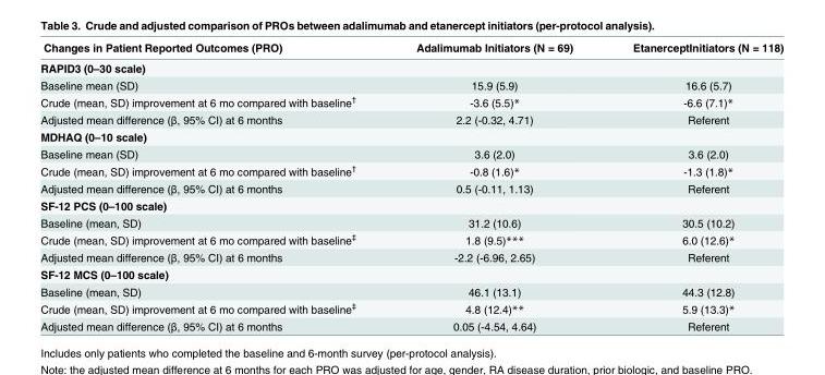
<table><thead><tr><td>Changes in Patient Reported Outcomes (PRO)</td><td>Adalimumab Initiators (N = 69)</td><td>EtanerceptInitiators (N = 118)</td></tr></thead><tbody><tr><td colspan="3">RAPID3 (0–30 scale)</td></tr><tr><td>Baseline mean (SD)</td><td>15.9 (5.9)</td><td>16.6 (5.7)</td></tr><tr><td>Crude (mean, SD) improvement at 6 mo compared with baseline<sup>†</sup></td><td>-3.6 (5.5)*</td><td>-6.6 (7.1)*</td></tr><tr><td>Adjusted mean difference (β, 95% CI) at 6 months</td><td>2.2 (-0.32, 4.71)</td><td>Referent</td></tr><tr><td colspan="3">MDHAQ (0–10 scale)</td></tr><tr><td>Baseline mean (SD)</td><td>3.6 (2.0)</td><td>3.6 (2.0)</td></tr><tr><td>Crude (mean, SD) improvement at 6 mo compared with baseline<sup>†</sup></td><td>-0.8 (1.6)*</td><td>-1.3 (1.8)*</td></tr><tr><td>Adjusted mean difference (β, 95% CI) at 6 months</td><td>0.5 (-0.11, 1.13)</td><td>Referent</td></tr><tr><td colspan="3">SF-12 PCS (0–100 scale)</td></tr><tr><td>Baseline (mean, SD)</td><td>31.2 (10.6)</td><td>30.5 (10.2)</td></tr><tr><td>Crude (mean, SD) improvement at 6 mo compared with baseline<sup>‡</sup></td><td>1.8 (9.5)***</td><td>6.0 (12.6)*</td></tr><tr><td>Adjusted mean difference (β, 95% CI) at 6 months</td><td>-2.2 (-6.96, 2.65)</td><td>Referent</td></tr><tr><td colspan="3">SF-12 MCS (0–100 scale)</td></tr><tr><td>Baseline (mean, SD)</td><td>46.1 (13.1)</td><td>44.3 (12.8)</td></tr><tr><td>Crude (mean, SD) improvement at 6 mo compared with baseline<sup>‡</sup></td><td>4.8 (12.4)**</td><td>5.9 (13.3)*</td></tr><tr><td>Adjusted mean difference (β, 95% CI) at 6 months</td><td>0.05 (-4.54, 4.64)</td><td>Referent</td></tr></tbody></table>